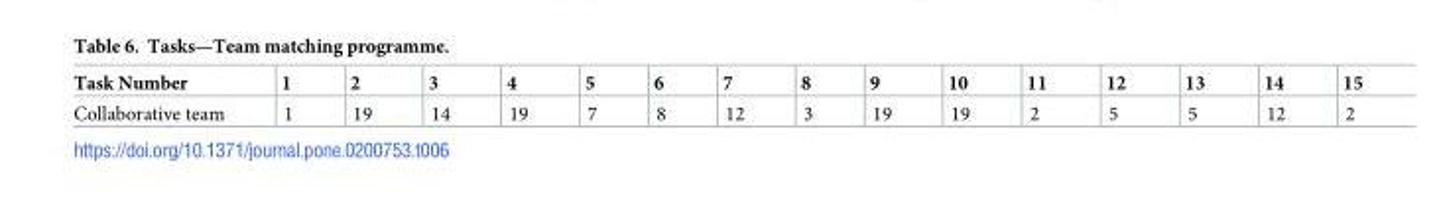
<table><thead><tr><td>Task Number</td><td>1</td><td>2</td><td>3</td><td>4</td><td>5</td><td>6</td><td>7</td><td>8</td><td>9</td><td>10</td><td>11</td><td>12</td><td>13</td><td>14</td><td>15</td></tr></thead><tbody><tr><td>Collaborative team</td><td>1</td><td>19</td><td>14</td><td>19</td><td>7</td><td>8</td><td>12</td><td>3</td><td>19</td><td>19</td><td>2</td><td>5</td><td>5</td><td>12</td><td>2</td></tr></tbody></table>